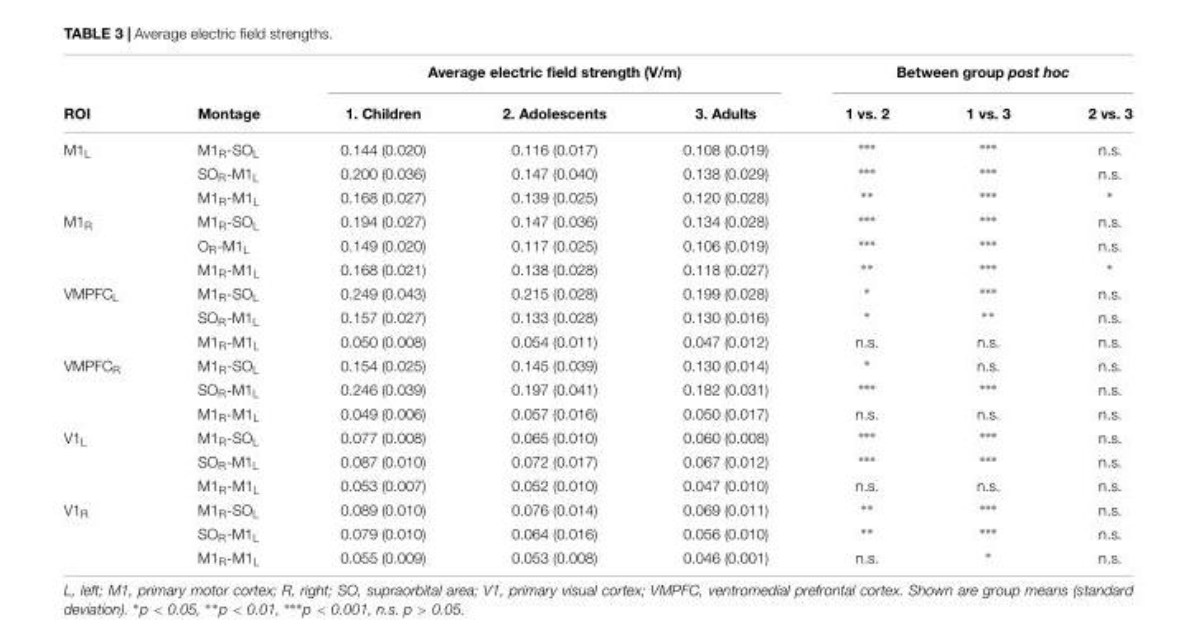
<table><thead><tr><td rowspan="2">ROI</td><td rowspan="2">Montage</td><td colspan="3">Average electric field strength (V/m)</td><td colspan="3">Between group post hoc</td></tr><tr><td>1. Children</td><td>2. Adolescents</td><td>3. Adults</td><td>1 vs. 2</td><td>1 vs. 3</td><td>2 vs. 3</td></tr></thead><tbody><tr><td rowspan="3">M1<sub>L</sub></td><td>M1<sub>R</sub>-SO<sub>L</sub></td><td>0.144 (0.020)</td><td>0.116 (0.017)</td><td>0.108 (0.019)</td><td>∗∗∗</td><td>∗∗∗</td><td>n.s.</td></tr><tr><td>SO<sub>R</sub>-M1<sub>L</sub></td><td>0.200 (0.036)</td><td>0.147 (0.040)</td><td>0.138 (0.029)</td><td>∗∗∗</td><td>∗∗∗</td><td>n.s.</td></tr><tr><td>M1<sub>R</sub>-M1<sub>L</sub></td><td>0.168 (0.027)</td><td>0.139 (0.025)</td><td>0.120 (0.028)</td><td>∗∗</td><td>∗∗∗</td><td>∗</td></tr><tr><td rowspan="3">M1<sub>R</sub></td><td>M1<sub>R</sub>-SO<sub>L</sub></td><td>0.194 (0.027)</td><td>0.147 (0.036)</td><td>0.134 (0.028)</td><td>∗∗∗</td><td>∗∗∗</td><td>n.s.</td></tr><tr><td>O<sub>R</sub>-M1<sub>L</sub></td><td>0.149 (0.020)</td><td>0.117 (0.025)</td><td>0.106 (0.019)</td><td>∗∗∗</td><td>∗∗∗</td><td>n.s.</td></tr><tr><td>M1<sub>R</sub>-M1<sub>L</sub></td><td>0.168 (0.021)</td><td>0.138 (0.028)</td><td>0.118 (0.027)</td><td>∗∗</td><td>∗∗∗</td><td>∗</td></tr><tr><td rowspan="3">VMPFC<sub>L</sub></td><td>M1<sub>R</sub>-SO<sub>L</sub></td><td>0.249 (0.043)</td><td>0.215 (0.028)</td><td>0.199 (0.028)</td><td>∗</td><td>∗∗∗</td><td>n.s.</td></tr><tr><td>SO<sub>R</sub>-M1<sub>L</sub></td><td>0.157 (0.027)</td><td>0.133 (0.028)</td><td>0.130 (0.016)</td><td>∗</td><td>∗∗</td><td>n.s.</td></tr><tr><td>M1<sub>R</sub>-M1<sub>L</sub></td><td>0.050 (0.008)</td><td>0.054 (0.011)</td><td>0.047 (0.012)</td><td>n.s.</td><td>n.s.</td><td>n.s.</td></tr><tr><td rowspan="3">VMPFC<sub>R</sub></td><td>M1<sub>R</sub>-SO<sub>L</sub></td><td>0.154 (0.025)</td><td>0.145 (0.039)</td><td>0.130 (0.014)</td><td>∗</td><td>n.s.</td><td>n.s.</td></tr><tr><td>SO<sub>R</sub>-M1<sub>L</sub></td><td>0.246 (0.039)</td><td>0.197 (0.041)</td><td>0.182 (0.031)</td><td>∗∗∗</td><td>∗∗∗</td><td>n.s.</td></tr><tr><td>M1<sub>R</sub>-M1<sub>L</sub></td><td>0.049 (0.006)</td><td>0.057 (0.016)</td><td>0.050 (0.017)</td><td>n.s.</td><td>n.s.</td><td>n.s.</td></tr><tr><td rowspan="3">V1<sub>L</sub></td><td>M1<sub>R</sub>-SO<sub>L</sub></td><td>0.077 (0.008)</td><td>0.065 (0.010)</td><td>0.060 (0.008)</td><td>∗∗∗</td><td>∗∗∗</td><td>n.s.</td></tr><tr><td>SO<sub>R</sub>-M1<sub>L</sub></td><td>0.087 (0.010)</td><td>0.072 (0.017)</td><td>0.067 (0.012)</td><td>∗∗∗</td><td>∗∗∗</td><td>n.s.</td></tr><tr><td>M1<sub>R</sub>-M1<sub>L</sub></td><td>0.053 (0.007)</td><td>0.052 (0.010)</td><td>0.047 (0.010)</td><td>n.s.</td><td>n.s.</td><td>n.s.</td></tr><tr><td rowspan="3">V1<sub>R</sub></td><td>M1<sub>R</sub>-SO<sub>L</sub></td><td>0.089 (0.010)</td><td>0.076 (0.014)</td><td>0.069 (0.011)</td><td>∗∗</td><td>∗∗∗</td><td>n.s.</td></tr><tr><td>SO<sub>R</sub>-M1<sub>L</sub></td><td>0.079 (0.010)</td><td>0.064 (0.016)</td><td>0.056 (0.010)</td><td>∗∗</td><td>∗∗∗</td><td>n.s.</td></tr><tr><td>M1<sub>R</sub>-M1<sub>L</sub></td><td>0.055 (0.009)</td><td>0.053 (0.008)</td><td>0.046 (0.001)</td><td>n.s.</td><td>∗</td><td>n.s.</td></tr></tbody></table>